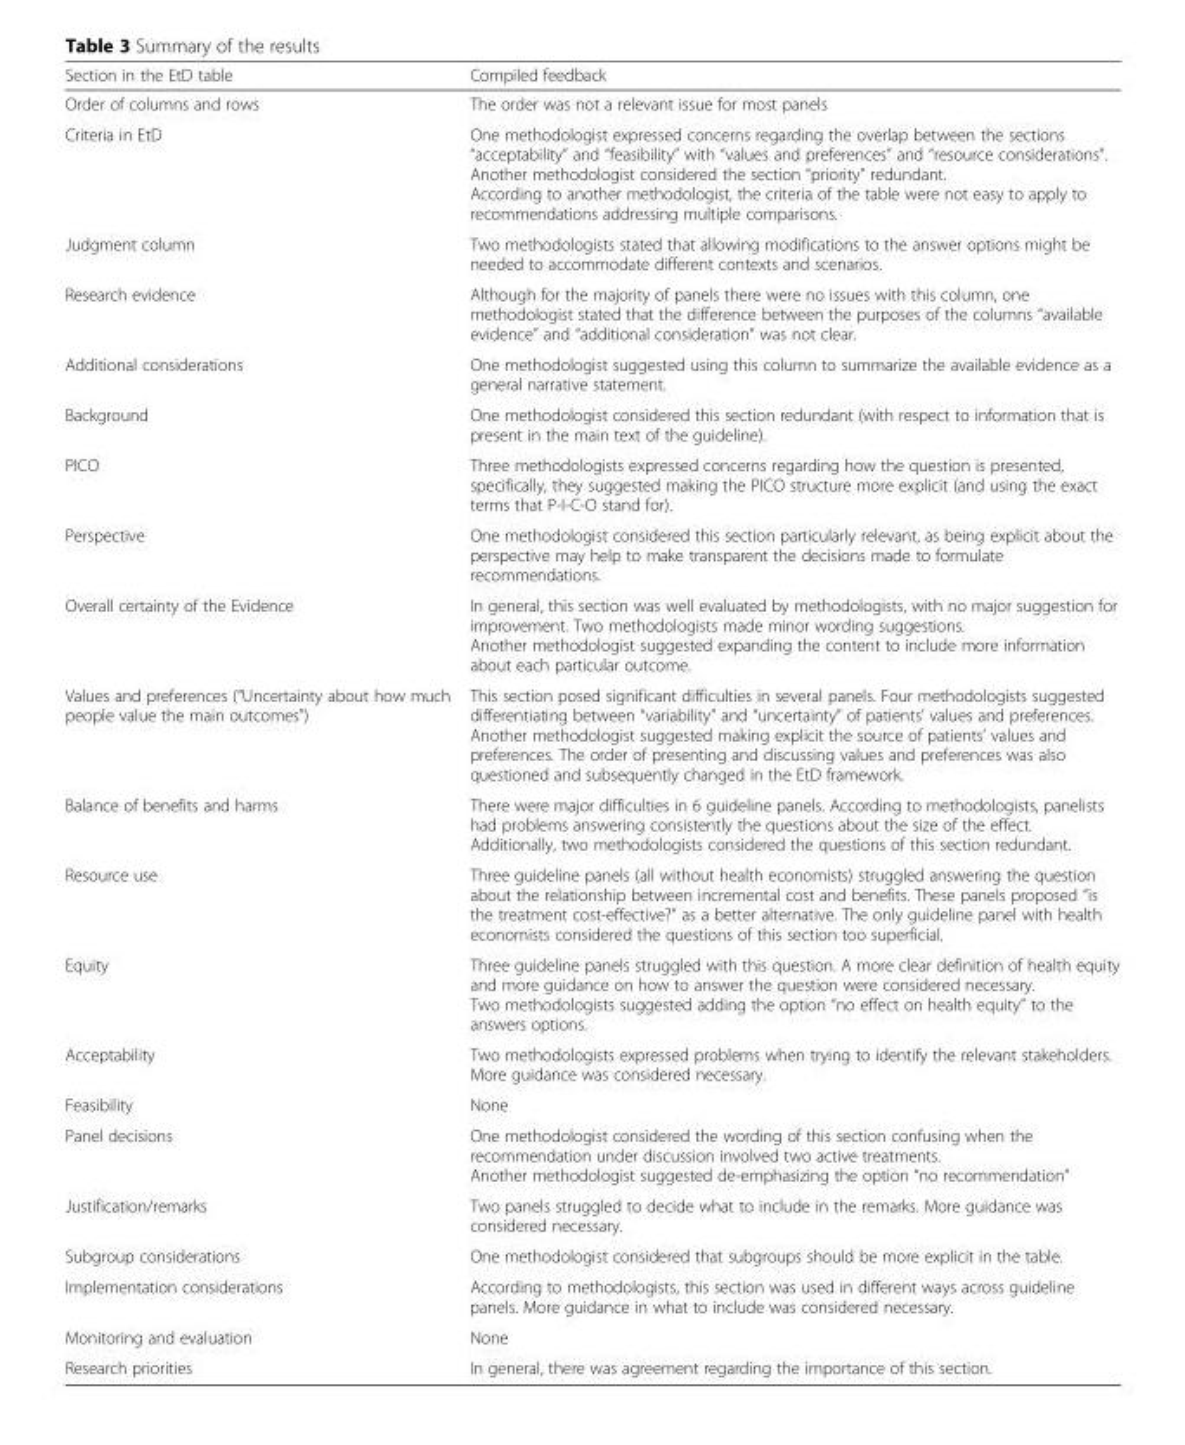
<table><thead><tr><td>Section in the EtD table</td><td>Compiled feedback</td></tr></thead><tbody><tr><td>Order of columns and rows</td><td>The order was not a relevant issue for most panels</td></tr><tr><td>Criteria in EtD</td><td>One methodologist expressed concerns regarding the overlap between the sections “acceptability” and “feasibility” with “values and preferences” and “resource considerations”. Another methodologist considered the section “priority” redundant. According to another methodologist, the criteria of the table were not easy to apply to recommendations addressing multiple comparisons.</td></tr><tr><td>Judgment column</td><td>Two methodologists stated that allowing modifications to the answer options might be needed to accommodate different contexts and scenarios.</td></tr><tr><td>Research evidence</td><td>Although for the majority of panels there were no issues with this column, one methodologist stated that the difference between the purposes of the columns “available evidence” and “additional consideration” was not clear.</td></tr><tr><td>Additional considerations</td><td>One methodologist suggested using this column to summarize the available evidence as a general narrative statement.</td></tr><tr><td>Background</td><td>One methodologist considered this section redundant (with respect to information that is present in the main text of the guideline).</td></tr><tr><td>PICO</td><td>Three methodologists expressed concerns regarding how the question is presented, specifically, they suggested making the PICO structure more explicit (and using the exact terms that P-I-C-O stand for).</td></tr><tr><td>Perspective</td><td>One methodologist considered this section particularly relevant, as being explicit about the perspective may help to make transparent the decisions made to formulate recommendations.</td></tr><tr><td>Overall certainty of the Evidence</td><td>In general, this section was well evaluated by methodologists, with no major suggestion for improvement. Two methodologists made minor wording suggestions. Another methodologist suggested expanding the content to include more information about each particular outcome.</td></tr><tr><td>Values and preferences (“Uncertainty about how much people value the main outcomes”)</td><td>This section posed significant difficulties in several panels. Four methodologists suggested differentiating between “variability” and “uncertainty” of patients’ values and preferences. Another methodologist suggested making explicit the source of patients’ values and preferences. The order of presenting and discussing values and preferences was also questioned and subsequently changed in the EtD framework.</td></tr><tr><td>Balance of benefits and harms</td><td>There were major difficulties in 6 guideline panels. According to methodologists, panelists had problems answering consistently the questions about the size of the effect. Additionally, two methodologists considered the questions of this section redundant.</td></tr><tr><td>Resource use</td><td>Three guideline panels (all without health economists) struggled answering the question about the relationship between incremental cost and benefits. These panels proposed “is the treatment cost-effective?” as a better alternative. The only guideline panel with health economists considered the questions of this section too superficial.</td></tr><tr><td>Equity</td><td>Three guideline panels struggled with this question. A more clear definition of health equity and more guidance on how to answer the question were considered necessary. Two methodologists suggested adding the option “no effect on health equity” to the answers options.</td></tr><tr><td>Acceptability</td><td>Two methodologists expressed problems when trying to identify the relevant stakeholders. More guidance was considered necessary.</td></tr><tr><td>Feasibility</td><td>None</td></tr><tr><td>Panel decisions</td><td>One methodologist considered the wording of this section confusing when the recommendation under discussion involved two active treatments. Another methodologist suggested de-emphasizing the option “no recommendation”</td></tr><tr><td>Justification/remarks</td><td>Two panels struggled to decide what to include in the remarks. More guidance was considered necessary.</td></tr><tr><td>Subgroup considerations</td><td>One methodologist considered that subgroups should be more explicit in the table.</td></tr><tr><td>Implementation considerations</td><td>According to methodologists, this section was used in different ways across guideline panels. More guidance in what to include was considered necessary.</td></tr><tr><td>Monitoring and evaluation</td><td>None</td></tr><tr><td>Research priorities</td><td>In general, there was agreement regarding the importance of this section.</td></tr></tbody></table>